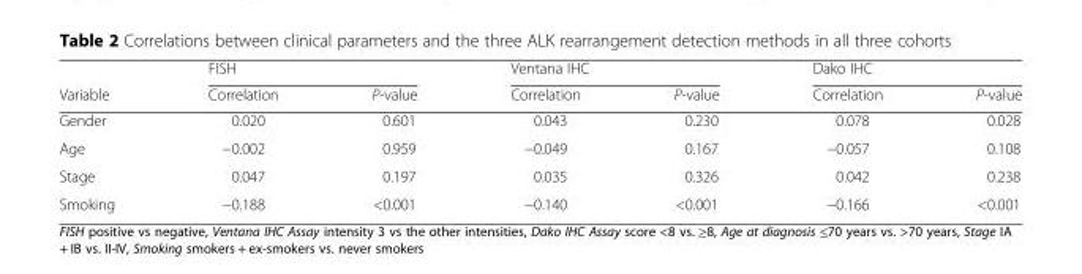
<table><thead><tr><td rowspan="2">Variable</td><td colspan="2">FISH</td><td colspan="2">Ventana IHC</td><td colspan="2">Dako IHC</td></tr><tr><td>Correlation</td><td>P-value</td><td>Correlation</td><td>P-value</td><td>Correlation</td><td>P-value</td></tr></thead><tbody><tr><td>Gender</td><td>0.020</td><td>0.601</td><td>0.043</td><td>0.230</td><td>0.078</td><td>0.028</td></tr><tr><td>Age</td><td>−0.002</td><td>0.959</td><td>−0.049</td><td>0.167</td><td>−0.057</td><td>0.108</td></tr><tr><td>Stage</td><td>0.047</td><td>0.197</td><td>0.035</td><td>0.326</td><td>0.042</td><td>0.238</td></tr><tr><td>Smoking</td><td>−0.188</td><td>&lt;0.001</td><td>−0.140</td><td>&lt;0.001</td><td>−0.166</td><td>&lt;0.001</td></tr></tbody></table>